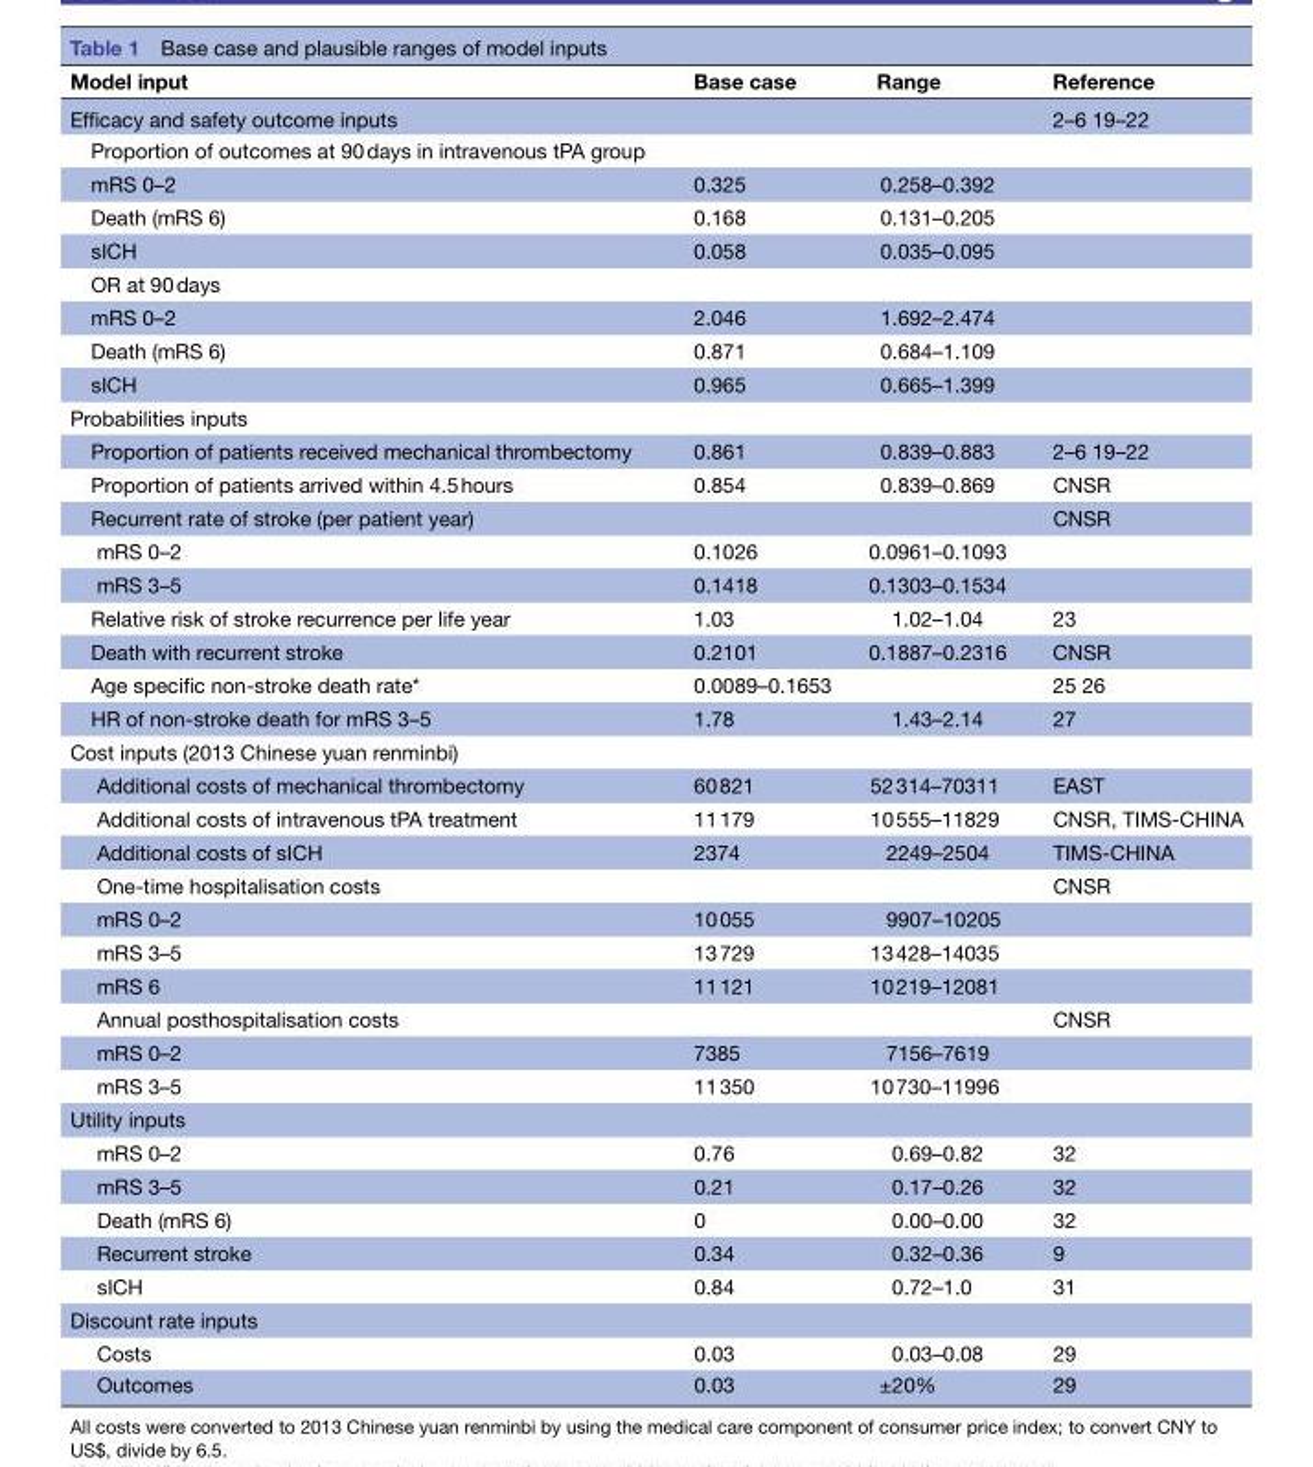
<table><thead><tr><td>Model input</td><td>Base case</td><td>Range</td><td>Reference</td></tr></thead><tbody><tr><td>Efficacy and safety outcome inputs</td><td></td><td></td><td>2–6 19–22</td></tr><tr><td colspan="4">Proportion of outcomes at 90 days in intravenous tPA group</td></tr><tr><td>mRS 0–2</td><td>0.325</td><td>0.258–0.392</td><td></td></tr><tr><td>Death (mRS 6)</td><td>0.168</td><td>0.131–0.205</td><td></td></tr><tr><td>sICH</td><td>0.058</td><td>0.035–0.095</td><td></td></tr><tr><td colspan="4">OR at 90 days</td></tr><tr><td>mRS 0–2</td><td>2.046</td><td>1.692–2.474</td><td></td></tr><tr><td>Death (mRS 6)</td><td>0.871</td><td>0.684–1.109</td><td></td></tr><tr><td>sICH</td><td>0.965</td><td>0.665–1.399</td><td></td></tr><tr><td colspan="4">Probabilities inputs</td></tr><tr><td>Proportion of patients received mechanical thrombectomy</td><td>0.861</td><td>0.839–0.883</td><td>2–6 19–22</td></tr><tr><td>Proportion of patients arrived within 4.5 hours</td><td>0.854</td><td>0.839–0.869</td><td>CNSR</td></tr><tr><td>Recurrent rate of stroke (per patient year)</td><td></td><td></td><td>CNSR</td></tr><tr><td>mRS 0–2</td><td>0.1026</td><td>0.0961–0.1093</td><td></td></tr><tr><td>mRS 3–5</td><td>0.1418</td><td>0.1303–0.1534</td><td></td></tr><tr><td>Relative risk of stroke recurrence per life year</td><td>1.03</td><td>1.02–1.04</td><td>23</td></tr><tr><td>Death with recurrent stroke</td><td>0.2101</td><td>0.1887–0.2316</td><td>CNSR</td></tr><tr><td>Age specific non-stroke death rate*</td><td>0.0089–0.1653</td><td></td><td>25 26</td></tr><tr><td>HR of non-stroke death for mRS 3–5</td><td>1.78</td><td>1.43–2.14</td><td>27</td></tr><tr><td colspan="4">Cost inputs (2013 Chinese yuan renminbi)</td></tr><tr><td>Additional costs of mechanical thrombectomy</td><td>60 821</td><td>52 314–70311</td><td>EAST</td></tr><tr><td>Additional costs of intravenous tPA treatment</td><td>11 179</td><td>10 555–11829</td><td>CNSR, TIMS-CHINA</td></tr><tr><td>Additional costs of sICH</td><td>2374</td><td>2249–2504</td><td>TIMS-CHINA</td></tr><tr><td>One-time hospitalisation costs</td><td></td><td></td><td>CNSR</td></tr><tr><td>mRS 0–2</td><td>10 055</td><td>9907–10205</td><td></td></tr><tr><td>mRS 3–5</td><td>13 729</td><td>13 428–14035</td><td></td></tr><tr><td>mRS 6</td><td>11 121</td><td>10 219–12081</td><td></td></tr><tr><td>Annual posthospitalisation costs</td><td></td><td></td><td>CNSR</td></tr><tr><td>mRS 0–2</td><td>7385</td><td>7156–7619</td><td></td></tr><tr><td>mRS 3–5</td><td>11 350</td><td>10 730–11996</td><td></td></tr><tr><td colspan="4">Utility inputs</td></tr><tr><td>mRS 0–2</td><td>0.76</td><td>0.69–0.82</td><td>32</td></tr><tr><td>mRS 3–5</td><td>0.21</td><td>0.17–0.26</td><td>32</td></tr><tr><td>Death (mRS 6)</td><td>0</td><td>0.00–0.00</td><td>32</td></tr><tr><td>Recurrent stroke</td><td>0.34</td><td>0.32–0.36</td><td>9</td></tr><tr><td>sICH</td><td>0.84</td><td>0.72–1.0</td><td>31</td></tr><tr><td colspan="4">Discount rate inputs</td></tr><tr><td>Costs</td><td>0.03</td><td>0.03–0.08</td><td>29</td></tr><tr><td>Outcomes</td><td>0.03</td><td>±20%</td><td>29</td></tr></tbody></table>